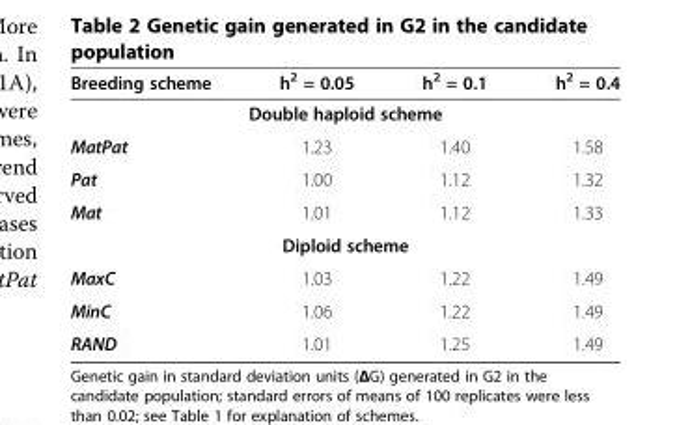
<table><thead><tr><td>Breeding scheme</td><td>h<sup>2</sup> = 0.05</td><td>h<sup>2</sup> = 0.1</td><td>h<sup>2</sup> = 0.4</td></tr></thead><tbody><tr><td colspan="4">Double haploid scheme</td></tr><tr><td>MatPat</td><td>1.23</td><td>1.40</td><td>1.58</td></tr><tr><td>Pat</td><td>1.00</td><td>1.12</td><td>1.32</td></tr><tr><td>Mat</td><td>1.01</td><td>1.12</td><td>1.33</td></tr><tr><td colspan="4">Diploid scheme</td></tr><tr><td>MaxC</td><td>1.03</td><td>1.22</td><td>1.49</td></tr><tr><td>MinC</td><td>1.06</td><td>1.22</td><td>1.49</td></tr><tr><td>RAND</td><td>1.01</td><td>1.25</td><td>1.49</td></tr></tbody></table>